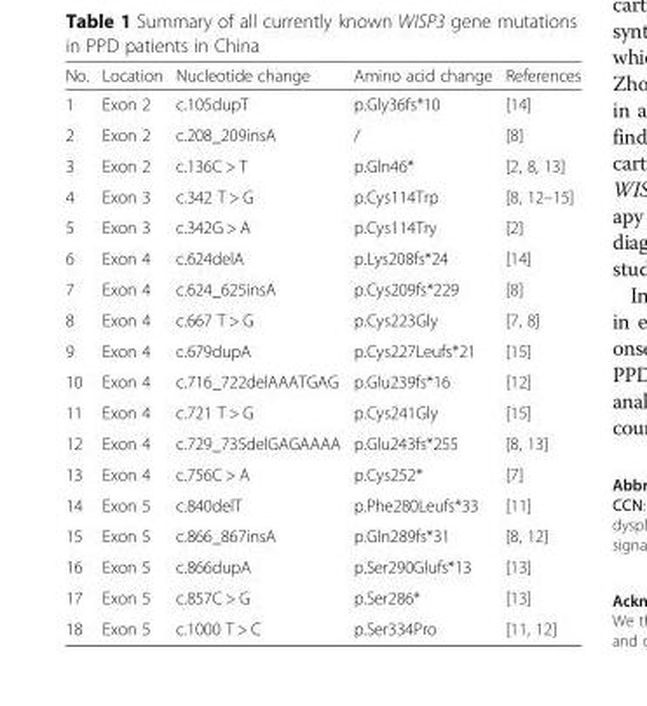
<table><thead><tr><td>No.</td><td>Location</td><td>Nucleotide change</td><td>Amino acid change</td><td>References</td></tr></thead><tbody><tr><td>1</td><td>Exon 2</td><td>c.105dupT</td><td>p.Gly36fs*10</td><td>[14]</td></tr><tr><td>2</td><td>Exon 2</td><td>c.208_209insA</td><td>/</td><td>[8]</td></tr><tr><td>3</td><td>Exon 2</td><td>c.136C &gt; T</td><td>p.Gln46*</td><td>[2, 8, 13]</td></tr><tr><td>4</td><td>Exon 3</td><td>c.342 T &gt; G</td><td>p.Cys114Trp</td><td>[8, 12–15]</td></tr><tr><td>5</td><td>Exon 3</td><td>c.342G &gt; A</td><td>p.Cys114Try</td><td>[2]</td></tr><tr><td>6</td><td>Exon 4</td><td>c.624delA</td><td>p.Lys208fs*24</td><td>[14]</td></tr><tr><td>7</td><td>Exon 4</td><td>c.624_625insA</td><td>p.Cys209fs*229</td><td>[8]</td></tr><tr><td>8</td><td>Exon 4</td><td>c.667 T &gt; G</td><td>p.Cys223Gly</td><td>[7, 8]</td></tr><tr><td>9</td><td>Exon 4</td><td>c.679dupA</td><td>p.Cys227Leufs*21</td><td>[15]</td></tr><tr><td>10</td><td>Exon 4</td><td>c.716_722delAAATGAG</td><td>p.Glu239fs*16</td><td>[12]</td></tr><tr><td>11</td><td>Exon 4</td><td>c.721 T &gt; G</td><td>p.Cys241Gly</td><td>[15]</td></tr><tr><td>12</td><td>Exon 4</td><td>c.729_735delGAGAAAA</td><td>p.Glu243fs*255</td><td>[8, 13]</td></tr><tr><td>13</td><td>Exon 4</td><td>c.756C &gt; A</td><td>p.Cys252*</td><td>[7]</td></tr><tr><td>14</td><td>Exon 5</td><td>c.840delT</td><td>p.Phe280Leufs*33</td><td>[11]</td></tr><tr><td>15</td><td>Exon 5</td><td>c.866_867insA</td><td>p.Gln289fs*31</td><td>[8, 12]</td></tr><tr><td>16</td><td>Exon 5</td><td>c.866dupA</td><td>p.Ser290Glufs*13</td><td>[13]</td></tr><tr><td>17</td><td>Exon 5</td><td>c.857C &gt; G</td><td>p.Ser286*</td><td>[13]</td></tr><tr><td>18</td><td>Exon 5</td><td>c.1000 T &gt; C</td><td>p.Ser334Pro</td><td>[11, 12]</td></tr></tbody></table>